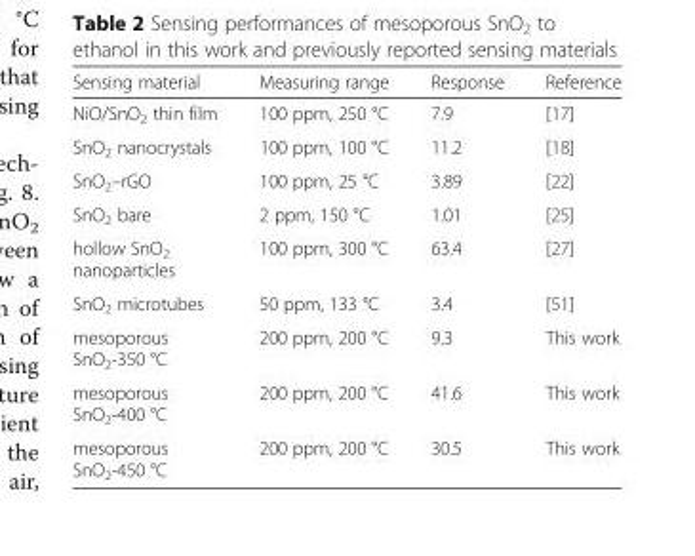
<table><thead><tr><td>Sensing material</td><td>Measuring range</td><td>Response</td><td>Reference</td></tr></thead><tbody><tr><td>NiO/SnO<sub>2</sub> thin film</td><td>100 ppm, 250 °C</td><td>7.9</td><td>[17]</td></tr><tr><td>SnO<sub>2</sub> nanocrystals</td><td>100 ppm, 100 °C</td><td>11.2</td><td>[18]</td></tr><tr><td>SnO<sub>2</sub>–rGO</td><td>100 ppm, 25 °C</td><td>3.89</td><td>[22]</td></tr><tr><td>SnO<sub>2</sub> bare</td><td>2 ppm, 150 °C</td><td>1.01</td><td>[25]</td></tr><tr><td>hollow SnO<sub>2</sub> nanoparticles</td><td>100 ppm, 300 °C</td><td>63.4</td><td>[27]</td></tr><tr><td>SnO<sub>2</sub> microtubes</td><td>50 ppm, 133 °C</td><td>3.4</td><td>[51]</td></tr><tr><td>mesoporous SnO<sub>2</sub>-350 °C</td><td>200 ppm, 200 °C</td><td>9.3</td><td>This work</td></tr><tr><td>mesoporous SnO<sub>2</sub>-400 °C</td><td>200 ppm, 200 °C</td><td>41.6</td><td>This work</td></tr><tr><td>mesoporous SnO<sub>2</sub>-450 °C</td><td>200 ppm, 200 °C</td><td>30.5</td><td>This work</td></tr></tbody></table>